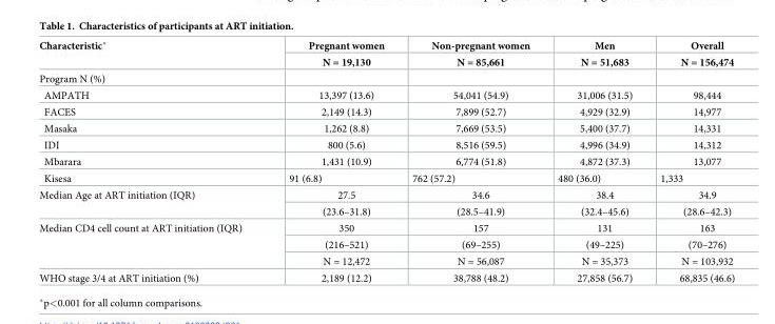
<table><thead><tr><td rowspan="2">Characteristic*</td><td rowspan="2">Pregnant women N = 19,130</td><td rowspan="2">Non-pregnant women N = 85,661</td><td rowspan="2">Men N = 51,683</td><td rowspan="2">Overall N = 156,474</td></tr><tr></tr></thead><tbody><tr><td colspan="5">Program N (%)</td></tr><tr><td>AMPATH</td><td>13,397 (13.6)</td><td>54,041 (54.9)</td><td>31,006 (31.5)</td><td>98,444</td></tr><tr><td>FACES</td><td>2,149 (14.3)</td><td>7,899 (52.7)</td><td>4,929 (32.9)</td><td>14,977</td></tr><tr><td>Masaka</td><td>1,262 (8.8)</td><td>7,669 (53.5)</td><td>5,400 (37.7)</td><td>14,331</td></tr><tr><td>IDI</td><td>800 (5.6)</td><td>8,516 (59.5)</td><td>4,996 (34.9)</td><td>14,312</td></tr><tr><td>Mbarara</td><td>1,431 (10.9)</td><td>6,774 (51.8)</td><td>4,872 (37.3)</td><td>13,077</td></tr><tr><td>Kisesa</td><td>91 (6.8)</td><td>762 (57.2)</td><td>480 (36.0)</td><td>1,333</td></tr><tr><td rowspan="2">Median Age at ART initiation (IQR)</td><td>27.5</td><td>34.6</td><td>38.4</td><td>34.9</td></tr><tr><td>(23.6–31.8)</td><td>(28.5–41.9)</td><td>(32.4–45.6)</td><td>(28.6–42.3)</td></tr><tr><td rowspan="3">Median CD4 cell count at ART initiation (IQR)</td><td>350</td><td>157</td><td>131</td><td>163</td></tr><tr><td>(216–521)</td><td>(69–255)</td><td>(49–225)</td><td>(70–276)</td></tr><tr><td>N = 12,472</td><td>N = 56,087</td><td>N = 35,373</td><td>N = 103,932</td></tr><tr><td>WHO stage 3/4 at ART initiation (%)</td><td>2,189 (12.2)</td><td>38,788 (48.2)</td><td>27,858 (56.7)</td><td>68,835 (46.6)</td></tr></tbody></table>